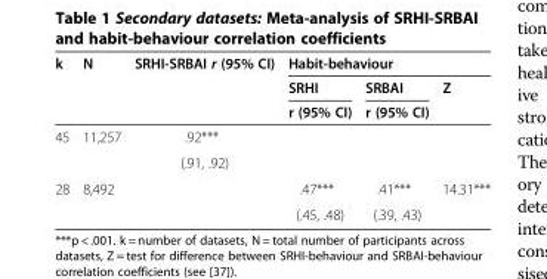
<table><thead><tr><td rowspan="3">k</td><td rowspan="3">N</td><td rowspan="3">SRHI-SRBAI r (95% CI)</td><td colspan="3">Habit-behaviour</td></tr><tr><td rowspan="2">SRHI r (95% CI)</td><td rowspan="2">SRBAI r (95% CI)</td><td rowspan="2">Z</td></tr><tr></tr></thead><tbody><tr><td rowspan="2">45</td><td rowspan="2">11,257</td><td>.92***</td><td rowspan="2"></td><td rowspan="2"></td><td rowspan="2"></td></tr><tr><td>(.91, .92)</td></tr><tr><td rowspan="2">28</td><td rowspan="2">8,492</td><td rowspan="2"></td><td>.47***</td><td>.41***</td><td rowspan="2">14.31***</td></tr><tr><td>(.45, .48)</td><td>(.39, .43)</td></tr></tbody></table>